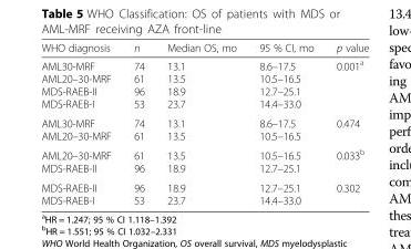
<table><thead><tr><td>WHO diagnosis</td><td>n</td><td>Median OS, mo</td><td>95 % CI, mo</td><td>p value</td></tr></thead><tbody><tr><td>AML30-MRF AML20–30-MRF MDS-RAEB-II MDS-RAEB-I</td><td>74 61 96 53</td><td>13.1 13.5 18.9 23.7</td><td>8.6–17.5 10.5–16.5 12.7–25.1 14.4–33.0</td><td>0.001<sup>a</sup></td></tr><tr><td>AML30-MRF AML20–30-MRF</td><td>74 61</td><td>13.1 13.5</td><td>8.6–17.5 10.5–16.5</td><td>0.474</td></tr><tr><td>AML20–30-MRF MDS-RAEB-II</td><td>61 96</td><td>13.5 18.9</td><td>10.5–16.5 12.7–25.1</td><td>0.033<sup>b</sup></td></tr><tr><td>MDS-RAEB-II MDS-RAEB-I</td><td>96 53</td><td>18.9 23.7</td><td>12.7–25.1 14.4–33.0</td><td>0.302</td></tr></tbody></table>